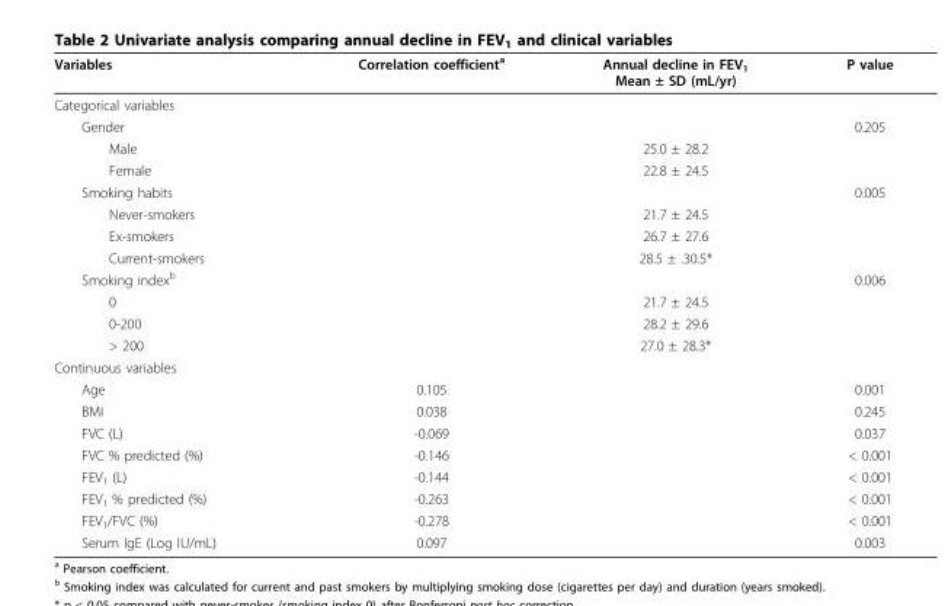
<table><thead><tr><td>Variables</td><td>Correlation coefficient<sup>a</sup></td><td>Annual decline in FEV<sub>1</sub> Mean ± SD (mL/yr)</td><td>P value</td></tr></thead><tbody><tr><td colspan="4">Categorical variables</td></tr><tr><td>Gender</td><td></td><td></td><td>0.205</td></tr><tr><td>Male</td><td></td><td>25.0 ± 28.2</td><td></td></tr><tr><td>Female</td><td></td><td>22.8 ± 24.5</td><td></td></tr><tr><td>Smoking habits</td><td></td><td></td><td>0.005</td></tr><tr><td>Never-smokers</td><td></td><td>21.7 ± 24.5</td><td></td></tr><tr><td>Ex-smokers</td><td></td><td>26.7 ± 27.6</td><td></td></tr><tr><td>Current-smokers</td><td></td><td>28.5 ± .30.5*</td><td></td></tr><tr><td>Smoking index<sup>b</sup></td><td></td><td></td><td>0.006</td></tr><tr><td>0</td><td></td><td>21.7 ± 24.5</td><td></td></tr><tr><td>0-200</td><td></td><td>28.2 ± 29.6</td><td></td></tr><tr><td>&gt; 200</td><td></td><td>27.0 ± 28.3*</td><td></td></tr><tr><td colspan="4">Continuous variables</td></tr><tr><td>Age</td><td>0.105</td><td></td><td>0.001</td></tr><tr><td>BMI</td><td>0.038</td><td></td><td>0.245</td></tr><tr><td>FVC (L)</td><td>-0.069</td><td></td><td>0.037</td></tr><tr><td>FVC % predicted (%)</td><td>-0.146</td><td></td><td>&lt; 0.001</td></tr><tr><td>FEV<sub>1</sub> (L)</td><td>-0.144</td><td></td><td>&lt; 0.001</td></tr><tr><td>FEV<sub>1</sub> % predicted (%)</td><td>-0.263</td><td></td><td>&lt; 0.001</td></tr><tr><td>FEV<sub>1</sub>/FVC (%)</td><td>-0.278</td><td></td><td>&lt; 0.001</td></tr><tr><td>Serum IgE (Log IU/mL)</td><td>0.097</td><td></td><td>0.003</td></tr></tbody></table>